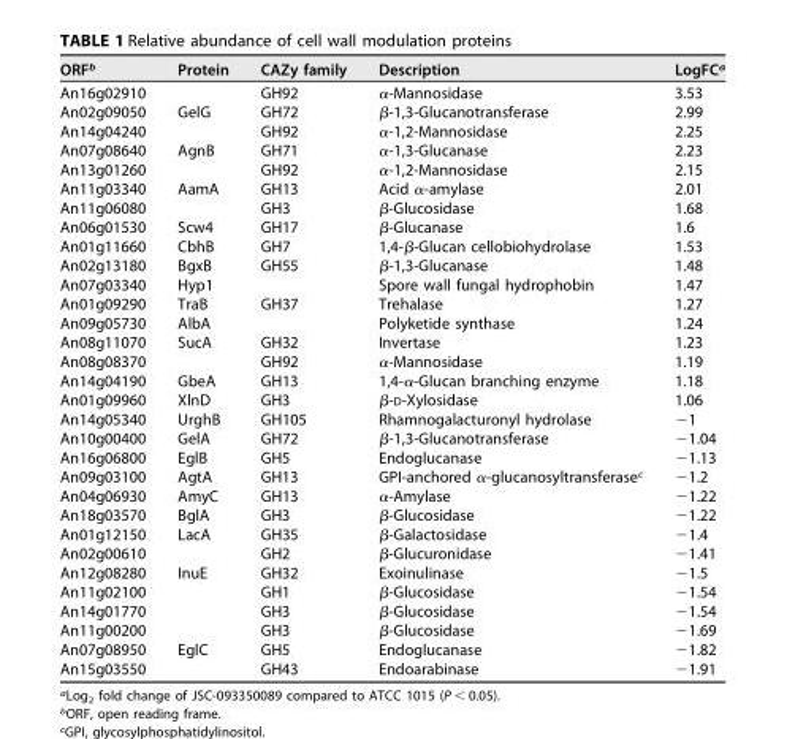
<table><thead><tr><td>ORF<sup>b</sup></td><td>Protein</td><td>CAZy family</td><td>Description</td><td>LogFC<sup>a</sup></td></tr></thead><tbody><tr><td>An16g02910</td><td></td><td>GH92</td><td>α-Mannosidase</td><td>3.53</td></tr><tr><td>An02g09050</td><td>GelG</td><td>GH72</td><td>β-1,3-Glucanotransferase</td><td>2.99</td></tr><tr><td>An14g04240</td><td></td><td>GH92</td><td>α-1,2-Mannosidase</td><td>2.25</td></tr><tr><td>An07g08640</td><td>AgnB</td><td>GH71</td><td>α-1,3-Glucanase</td><td>2.23</td></tr><tr><td>An13g01260</td><td></td><td>GH92</td><td>α-1,2-Mannosidase</td><td>2.15</td></tr><tr><td>An11g03340</td><td>AamA</td><td>GH13</td><td>Acid α-amylase</td><td>2.01</td></tr><tr><td>An11g06080</td><td></td><td>GH3</td><td>β-Glucosidase</td><td>1.68</td></tr><tr><td>An06g01530</td><td>Scw4</td><td>GH17</td><td>β-Glucanase</td><td>1.6</td></tr><tr><td>An01g11660</td><td>CbhB</td><td>GH7</td><td>1,4-β-Glucan cellobiohydrolase</td><td>1.53</td></tr><tr><td>An02g13180</td><td>BgxB</td><td>GH55</td><td>β-1,3-Glucanase</td><td>1.48</td></tr><tr><td>An07g03340</td><td>Hyp1</td><td></td><td>Spore wall fungal hydrophobin</td><td>1.47</td></tr><tr><td>An01g09290</td><td>TraB</td><td>GH37</td><td>Trehalase</td><td>1.27</td></tr><tr><td>An09g05730</td><td>AlbA</td><td></td><td>Polyketide synthase</td><td>1.24</td></tr><tr><td>An08g11070</td><td>SucA</td><td>GH32</td><td>Invertase</td><td>1.23</td></tr><tr><td>An08g08370</td><td></td><td>GH92</td><td>α-Mannosidase</td><td>1.19</td></tr><tr><td>An14g04190</td><td>GbeA</td><td>GH13</td><td>1,4-α-Glucan branching enzyme</td><td>1.18</td></tr><tr><td>An01g09960</td><td>XlnD</td><td>GH3</td><td>β-D-Xylosidase</td><td>1.06</td></tr><tr><td>An14g05340</td><td>UrghB</td><td>GH105</td><td>Rhamnogalacturonyl hydrolase</td><td>−1</td></tr><tr><td>An10g00400</td><td>GelA</td><td>GH72</td><td>β-1,3-Glucanotransferase</td><td>−1.04</td></tr><tr><td>An16g06800</td><td>EglB</td><td>GH5</td><td>Endoglucanase</td><td>−1.13</td></tr><tr><td>An09g03100</td><td>AgtA</td><td>GH13</td><td>GPI-anchored α-glucanosyltransferase<sup>c</sup></td><td>−1.2</td></tr><tr><td>An04g06930</td><td>AmyC</td><td>GH13</td><td>α-Amylase</td><td>−1.22</td></tr><tr><td>An18g03570</td><td>BglA</td><td>GH3</td><td>β-Glucosidase</td><td>−1.22</td></tr><tr><td>An01g12150</td><td>LacA</td><td>GH35</td><td>β-Galactosidase</td><td>−1.4</td></tr><tr><td>An02g00610</td><td></td><td>GH2</td><td>β-Glucuronidase</td><td>−1.41</td></tr><tr><td>An12g08280</td><td>InuE</td><td>GH32</td><td>Exoinulinase</td><td>−1.5</td></tr><tr><td>An11g02100</td><td></td><td>GH1</td><td>β-Glucosidase</td><td>−1.54</td></tr><tr><td>An14g01770</td><td></td><td>GH3</td><td>β-Glucosidase</td><td>−1.54</td></tr><tr><td>An11g00200</td><td></td><td>GH3</td><td>β-Glucosidase</td><td>−1.69</td></tr><tr><td>An07g08950</td><td>EglC</td><td>GH5</td><td>Endoglucanase</td><td>−1.82</td></tr><tr><td>An15g03550</td><td></td><td>GH43</td><td>Endoarabinase</td><td>−1.91</td></tr></tbody></table>